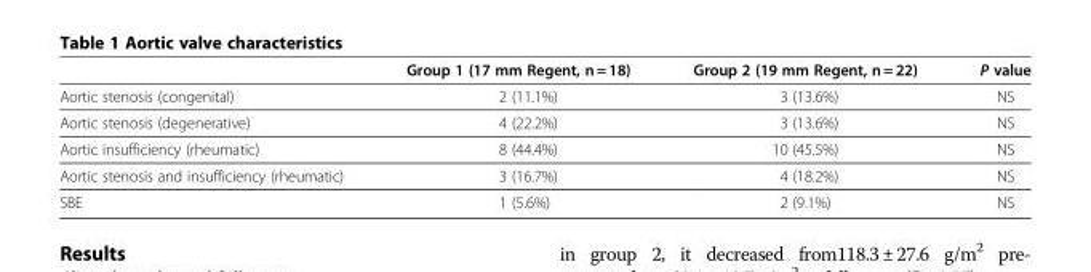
<table><thead><tr><td></td><td>Group 1 (17 mm Regent, n = 18)</td><td>Group 2 (19 mm Regent, n = 22)</td><td>P value</td></tr></thead><tbody><tr><td>Aortic stenosis (congenital)</td><td>2 (11.1%)</td><td>3 (13.6%)</td><td>NS</td></tr><tr><td>Aortic stenosis (degenerative)</td><td>4 (22.2%)</td><td>3 (13.6%)</td><td>NS</td></tr><tr><td>Aortic insufficiency (rheumatic)</td><td>8 (44.4%)</td><td>10 (45.5%)</td><td>NS</td></tr><tr><td>Aortic stenosis and insufficiency (rheumatic)</td><td>3 (16.7%)</td><td>4 (18.2%)</td><td>NS</td></tr><tr><td>SBE</td><td>1 (5.6%)</td><td>2 (9.1%)</td><td>NS</td></tr></tbody></table>